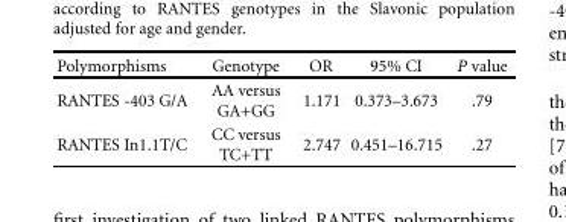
<table><thead><tr><td>Polymorphisms</td><td>Genotype</td><td>OR</td><td>95% CI</td><td>P value</td></tr></thead><tbody><tr><td>RANTES -403 G/A</td><td>AA versus GA+GG</td><td>1.171</td><td>0.373–3.673</td><td>.79</td></tr><tr><td>RANTES In1.1T/C</td><td>CC versus TC+TT</td><td>2.747</td><td>0.451–16.715</td><td>.27</td></tr></tbody></table>